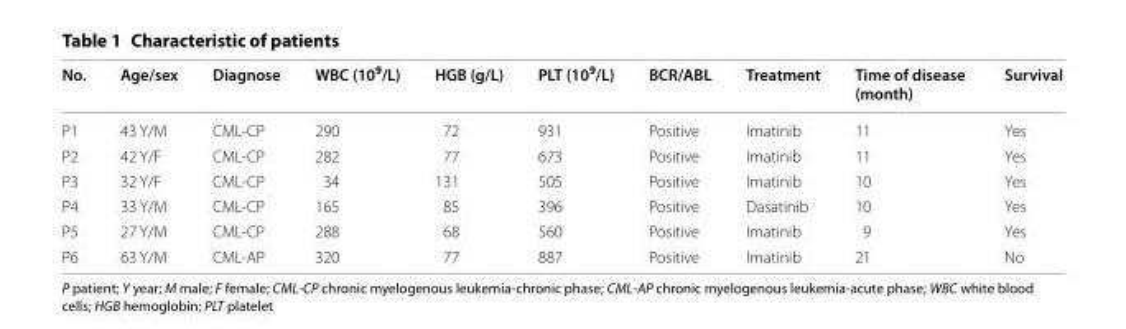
<table><thead><tr><td>No.</td><td>Age/sex</td><td>Diagnose</td><td>WBC (10<sup>9</sup>/L)</td><td>HGB (g/L)</td><td>PLT (10<sup>9</sup>/L)</td><td>BCR/ABL</td><td>Treatment</td><td>Time of disease (month)</td><td>Survival</td></tr></thead><tbody><tr><td>P1</td><td>43 Y/M</td><td>CML‑CP</td><td>290</td><td>72</td><td>931</td><td>Positive</td><td>Imatinib</td><td>11</td><td>Yes</td></tr><tr><td>P2</td><td>42 Y/F</td><td>CML‑CP</td><td>282</td><td>77</td><td>673</td><td>Positive</td><td>Imatinib</td><td>11</td><td>Yes</td></tr><tr><td>P3</td><td>32 Y/F</td><td>CML‑CP</td><td>34</td><td>131</td><td>505</td><td>Positive</td><td>Imatinib</td><td>10</td><td>Yes</td></tr><tr><td>P4</td><td>33 Y/M</td><td>CML‑CP</td><td>165</td><td>85</td><td>396</td><td>Positive</td><td>Dasatinib</td><td>10</td><td>Yes</td></tr><tr><td>P5</td><td>27 Y/M</td><td>CML‑CP</td><td>288</td><td>68</td><td>560</td><td>Positive</td><td>Imatinib</td><td>9</td><td>Yes</td></tr><tr><td>P6</td><td>63 Y/M</td><td>CML‑AP</td><td>320</td><td>77</td><td>887</td><td>Positive</td><td>Imatinib</td><td>21</td><td>No</td></tr></tbody></table>